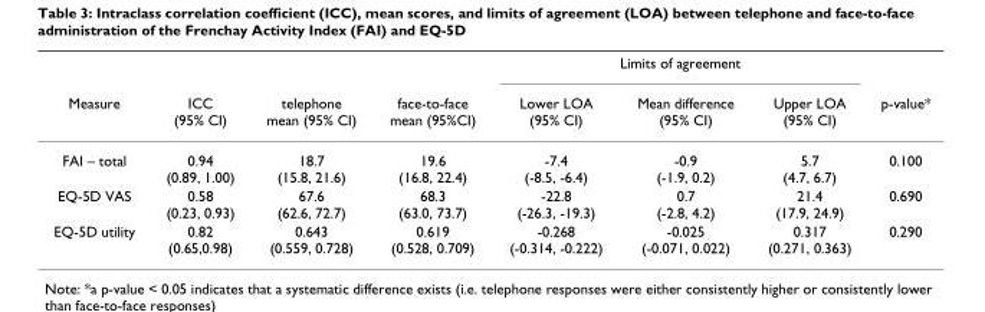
<table><thead><tr><td rowspan="2">Measure</td><td rowspan="2">ICC (95% CI)</td><td rowspan="2">telephone mean (95% CI)</td><td rowspan="2">face-to-face mean (95%CI)</td><td colspan="3">Limits of agreement</td><td rowspan="2">p-value*</td></tr><tr><td>Lower LOA (95% CI)</td><td>Mean difference (95% CI)</td><td>Upper LOA (95% CI)</td></tr></thead><tbody><tr><td>FAI – total</td><td>0.94 (0.89, 1.00)</td><td>18.7 (15.8, 21.6)</td><td>19.6 (16.8, 22.4)</td><td>-7.4 (-8.5, -6.4)</td><td>-0.9 (-1.9, 0.2)</td><td>5.7 (4.7, 6.7)</td><td>0.100</td></tr><tr><td>EQ-5D VAS</td><td>0.58 (0.23, 0.93)</td><td>67.6 (62.6, 72.7)</td><td>68.3 (63.0, 73.7)</td><td>-22.8 (-26.3, -19.3)</td><td>0.7 (-2.8, 4.2)</td><td>21.4 (17.9, 24.9)</td><td>0.690</td></tr><tr><td>EQ-5D utility</td><td>0.82 (0.65,0.98)</td><td>0.643 (0.559, 0.728)</td><td>0.619 (0.528, 0.709)</td><td>-0.268 (-0.314, -0.222)</td><td>-0.025 (-0.071, 0.022)</td><td>0.317 (0.271, 0.363)</td><td>0.290</td></tr></tbody></table>